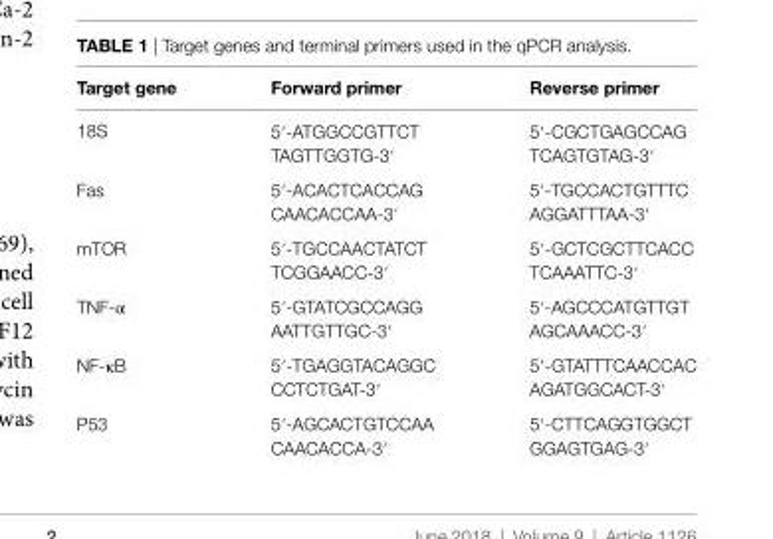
<table><thead><tr><td>Target gene</td><td>Forward primer</td><td>reverse primer</td></tr></thead><tbody><tr><td>18S</td><td>5′-ATGGCCGTTCT TAGTTGGTG-3′</td><td>5′-CGCTGAGCCAG TCAGTGTAG-3′</td></tr><tr><td>Fas</td><td>5′-ACACTCACCAG CAACACCAA-3′</td><td>5′-TGCCACTGTTTC AGGATTTAA-3′</td></tr><tr><td>mTOR</td><td>5′-TGCCAACTATCT TCGGAACC-3′</td><td>5′-GCTCGCTTCACC TCAAATTC-3′</td></tr><tr><td>TNF-α</td><td>5′-GTATCGCCAGG AATTGTTGC-3′</td><td>5′-AGCCCATGTTGT AGCAAACC-3′</td></tr><tr><td>NF-κB</td><td>5′-TGAGGTACAGGC CCTCTGAT-3′</td><td>5′-GTATTTCAACCAC AGATGGCACT-3′</td></tr><tr><td>P53</td><td>5′-AGCACTGTCCAA CAACACCA-3′</td><td>5′-CTTCAGGTGGCT GGAGTGAG-3′</td></tr></tbody></table>